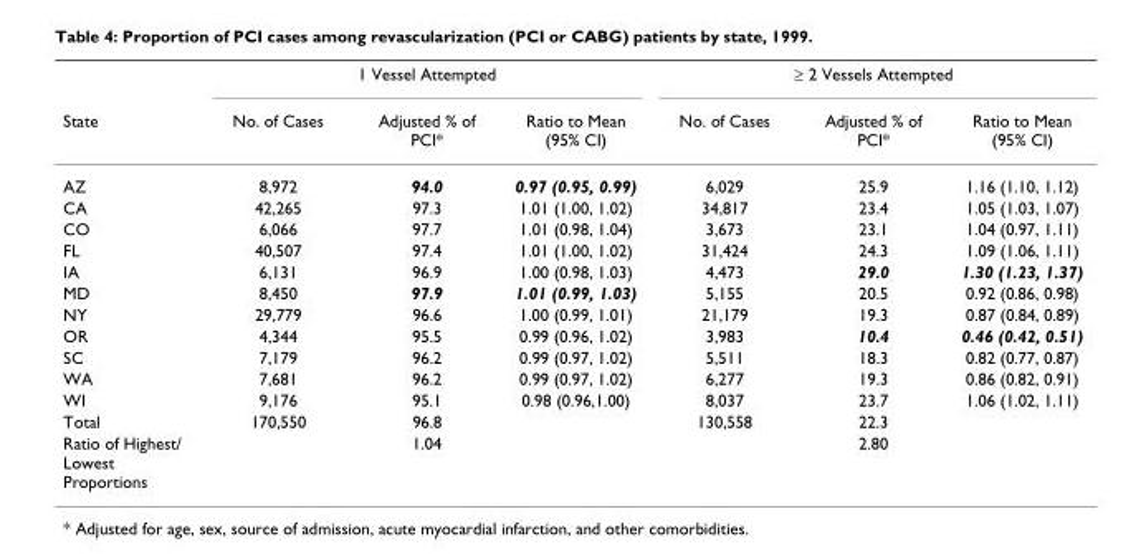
<table><thead><tr><td rowspan="2">State</td><td colspan="3">1 Vessel Attempted</td><td colspan="3">≥ 2 Vessels Attempted</td></tr><tr><td>No. of Cases</td><td>Adjusted % of PCI*</td><td>Ratio to Mean (95% CI)</td><td>No. of Cases</td><td>Adjusted % of PCI*</td><td>Ratio to Mean (95% CI)</td></tr></thead><tbody><tr><td>AZ</td><td>8,972</td><td>94.0</td><td>0.97 (0.95, 0.99)</td><td>6,029</td><td>25.9</td><td>1.16 (1.10, 1.12)</td></tr><tr><td>CA</td><td>42,265</td><td>97.3</td><td>1.01 (1.00, 1.02)</td><td>34,817</td><td>23.4</td><td>1.05 (1.03, 1.07)</td></tr><tr><td>CO</td><td>6,066</td><td>97.7</td><td>1.01 (0.98, 1.04)</td><td>3,673</td><td>23.1</td><td>1.04 (0.97, 1.11)</td></tr><tr><td>FL</td><td>40,507</td><td>97.4</td><td>1.01 (1.00, 1.02)</td><td>31,424</td><td>24.3</td><td>1.09 (1.06, 1.11)</td></tr><tr><td>IA</td><td>6,131</td><td>96.9</td><td>1.00 (0.98, 1.03)</td><td>4,473</td><td>29.0</td><td>1.30 (1.23, 1.37)</td></tr><tr><td>MD</td><td>8,450</td><td>97.9</td><td>1.01 (0.99, 1.03)</td><td>5,155</td><td>20.5</td><td>0.92 (0.86, 0.98)</td></tr><tr><td>NY</td><td>29,779</td><td>96.6</td><td>1.00 (0.99, 1.01)</td><td>21,179</td><td>19.3</td><td>0.87 (0.84, 0.89)</td></tr><tr><td>OR</td><td>4,344</td><td>95.5</td><td>0.99 (0.96, 1.02)</td><td>3,983</td><td>10.4</td><td>0.46 (0.42, 0.51)</td></tr><tr><td>SC</td><td>7,179</td><td>96.2</td><td>0.99 (0.97, 1.02)</td><td>5,511</td><td>18.3</td><td>0.82 (0.77, 0.87)</td></tr><tr><td>WA</td><td>7,681</td><td>96.2</td><td>0.99 (0.97, 1.02)</td><td>6,277</td><td>19.3</td><td>0.86 (0.82, 0.91)</td></tr><tr><td>WI</td><td>9,176</td><td>95.1</td><td>0.98 (0.96,1.00)</td><td>8,037</td><td>23.7</td><td>1.06 (1.02, 1.11)</td></tr><tr><td>Total</td><td>170,550</td><td>96.8</td><td></td><td>130,558</td><td>22.3</td><td></td></tr><tr><td>Ratio of Highest/ Lowest Proportions</td><td></td><td>1.04</td><td></td><td></td><td>2.80</td><td></td></tr></tbody></table>